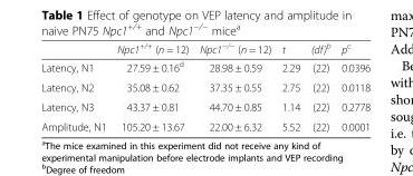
<table><thead><tr><td></td><td>Npc1<sup>+/+</sup> (n = 12)</td><td>Npc1<sup>−/−</sup> (n = 12)</td><td>t</td><td>(df)<sup>b</sup></td><td>p<sup>c</sup></td></tr></thead><tbody><tr><td>Latency, N1</td><td>27.59 ± 0.16<sup>d</sup></td><td>28.98 ± 0.59</td><td>2.29</td><td>(22)</td><td>0.0396</td></tr><tr><td>Latency, N2</td><td>35.08 ± 0.62</td><td>37.35 ± 0.55</td><td>2.75</td><td>(22)</td><td>0.0118</td></tr><tr><td>Latency, N3</td><td>43.37 ± 0.81</td><td>44.70 ± 0.85</td><td>1.14</td><td>(22)</td><td>0.2778</td></tr><tr><td>Amplitude, N1</td><td>105.20 ± 13.67</td><td>22.00 ± 6.32</td><td>5.52</td><td>(22)</td><td>0.0001</td></tr></tbody></table>